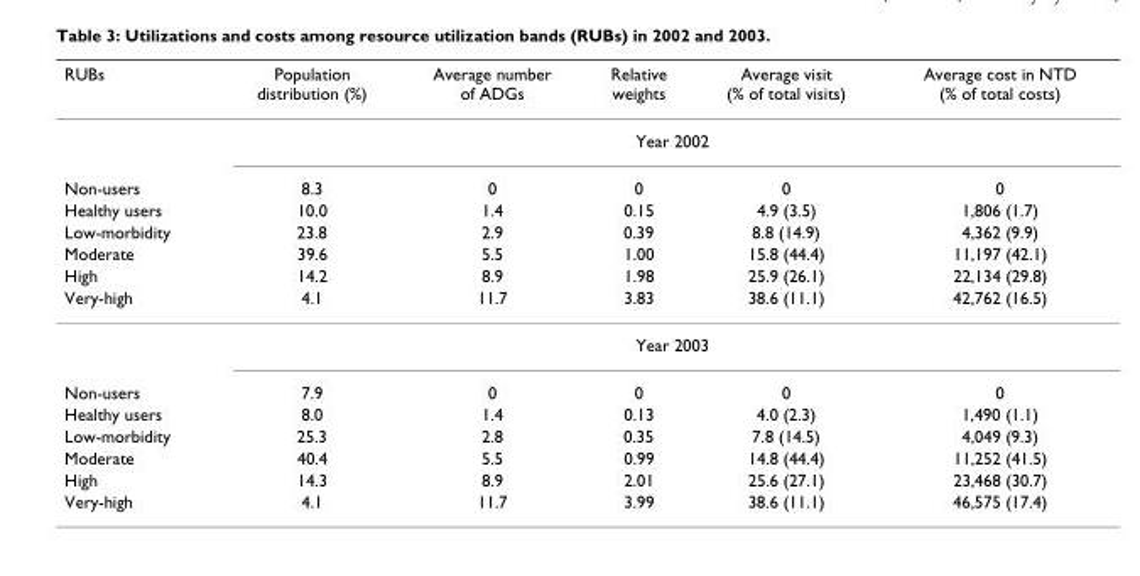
<table><thead><tr><td>RUBs</td><td>Population distribution (%)</td><td>Average number of ADGs</td><td>Relative weights</td><td>Average visit (% of total visits)</td><td>Average cost in NTD (% of total costs)</td></tr></thead><tbody><tr><td></td><td colspan="5">Year 2002</td></tr><tr><td>Non-users</td><td>8.3</td><td>0</td><td>0</td><td>0</td><td>0</td></tr><tr><td>Healthy users</td><td>10.0</td><td>1.4</td><td>0.15</td><td>4.9 (3.5)</td><td>1,806 (1.7)</td></tr><tr><td>Low-morbidity</td><td>23.8</td><td>2.9</td><td>0.39</td><td>8.8 (14.9)</td><td>4,362 (9.9)</td></tr><tr><td>Moderate</td><td>39.6</td><td>5.5</td><td>1.00</td><td>15.8 (44.4)</td><td>11,197 (42.1)</td></tr><tr><td>High</td><td>14.2</td><td>8.9</td><td>1.98</td><td>25.9 (26.1)</td><td>22,134 (29.8)</td></tr><tr><td rowspan="2">Very-high</td><td>4.1</td><td>11.7</td><td>3.83</td><td>38.6 (11.1)</td><td>42,762 (16.5)</td></tr><tr><td colspan="5">Year 2003</td></tr><tr><td>Non-users</td><td>7.9</td><td>0</td><td>0</td><td>0</td><td>0</td></tr><tr><td>Healthy users</td><td>8.0</td><td>1.4</td><td>0.13</td><td>4.0 (2.3)</td><td>1,490 (1.1)</td></tr><tr><td>Low-morbidity</td><td>25.3</td><td>2.8</td><td>0.35</td><td>7.8 (14.5)</td><td>4,049 (9.3)</td></tr><tr><td>Moderate</td><td>40.4</td><td>5.5</td><td>0.99</td><td>14.8 (44.4)</td><td>11,252 (41.5)</td></tr><tr><td>High</td><td>14.3</td><td>8.9</td><td>2.01</td><td>25.6 (27.1)</td><td>23,468 (30.7)</td></tr><tr><td>Very-high</td><td>4.1</td><td>11.7</td><td>3.99</td><td>38.6 (11.1)</td><td>46,575 (17.4)</td></tr></tbody></table>